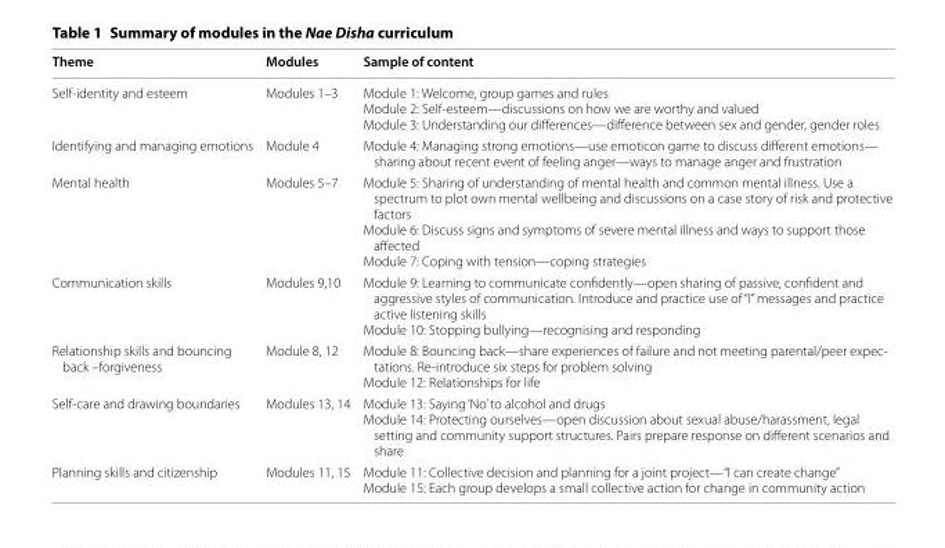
<table><thead><tr><td>Theme</td><td>Modules</td><td>Sample of content</td></tr></thead><tbody><tr><td>Self-identity and esteem</td><td>Modules 1–3</td><td>Module 1: Welcome, group games and rules Module 2: Self-esteem—discussions on how we are worthy and valued Module 3: Understanding our differences—difference between sex and gender, gender roles</td></tr><tr><td>Identifying and managing emotions</td><td>Module 4</td><td>Module 4: Managing strong emotions—use emoticon game to discuss different emotions— sharing about recent event of feeling anger—ways to manage anger and frustration</td></tr><tr><td>Mental health</td><td>Modules 5–7</td><td>Module 5: Sharing of understanding of mental health and common mental illness. Use a spectrum to plot own mental wellbeing and discussions on a case story of risk and protective factors Module 6: Discuss signs and symptoms of severe mental illness and ways to support those affected Module 7: Coping with tension—coping strategies</td></tr><tr><td>Communication skills</td><td>Modules 9,10</td><td>Module 9: Learning to communicate confidently—open sharing of passive, confident and aggressive styles of communication. Introduce and practice use of “I” messages and practice active listening skills Module 10: Stopping bullying—recognising and responding</td></tr><tr><td>Relationship skills and bouncing back –forgiveness</td><td>Module 8, 12</td><td>Module 8: Bouncing back—share experiences of failure and not meeting parental/peer expec- tations. Re-introduce six steps for problem solving Module 12: Relationships for life</td></tr><tr><td>Self-care and drawing boundaries</td><td>Modules 13, 14</td><td>Module 13: Saying ‘No’ to alcohol and drugs Module 14: Protecting ourselves—open discussion about sexual abuse/harassment, legal setting and community support structures. Pairs prepare response on different scenarios and share</td></tr><tr><td>Planning skills and citizenship</td><td>Modules 11, 15</td><td>Module 11: Collective decision and planning for a joint project—“I can create change” Module 15: Each group develops a small collective action for change in community action</td></tr></tbody></table>